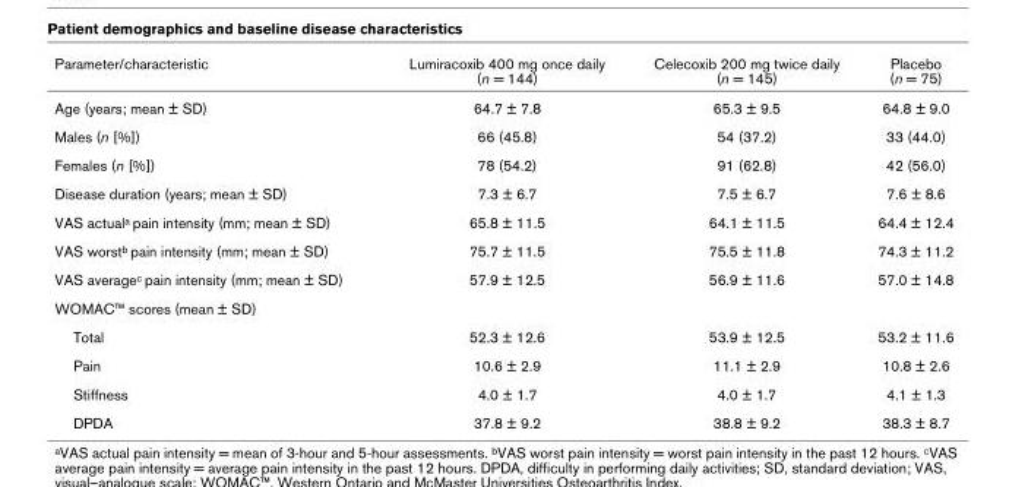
<table><thead><tr><td>Parameter/characteristic</td><td>Lumiracoxib 400 mg once daily (n = 144)</td><td>Celecoxib 200 mg twice daily (n = 145)</td><td>Placebo (n = 75)</td></tr></thead><tbody><tr><td>Age (years; mean ± SD)</td><td>64.7 ± 7.8</td><td>65.3 ± 9.5</td><td>64.8 ± 9.0</td></tr><tr><td>Males (n [%])</td><td>66 (45.8)</td><td>54 (37.2)</td><td>33 (44.0)</td></tr><tr><td>Females (n [%])</td><td>78 (54.2)</td><td>91 (62.8)</td><td>42 (56.0)</td></tr><tr><td>Disease duration (years; mean ± SD)</td><td>7.3 ± 6.7</td><td>7.5 ± 6.7</td><td>7.6 ± 8.6</td></tr><tr><td>VAS actuala pain intensity (mm; mean ± SD)</td><td>65.8 ± 11.5</td><td>64.1 ± 11.5</td><td>64.4 ± 12.4</td></tr><tr><td>VAS worstb pain intensity (mm; mean ± SD)</td><td>75.7 ± 11.5</td><td>75.5 ± 11.8</td><td>74.3 ± 11.2</td></tr><tr><td>VAS averagec pain intensity (mm; mean ± SD)</td><td>57.9 ± 12.5</td><td>56.9 ± 11.6</td><td>57.0 ± 14.8</td></tr><tr><td colspan="4">WOMAC™ scores (mean ± SD)</td></tr><tr><td>Total</td><td>52.3 ± 12.6</td><td>53.9 ± 12.5</td><td>53.2 ± 11.6</td></tr><tr><td>Pain</td><td>10.6 ± 2.9</td><td>11.1 ± 2.9</td><td>10.8 ± 2.6</td></tr><tr><td>Stiffness</td><td>4.0 ± 1.7</td><td>4.0 ± 1.7</td><td>4.1 ± 1.3</td></tr><tr><td>DPDA</td><td>37.8 ± 9.2</td><td>38.8 ± 9.2</td><td>38.3 ± 8.7</td></tr></tbody></table>